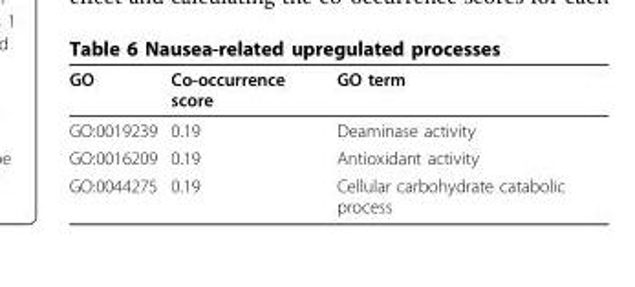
<table><thead><tr><td>GO</td><td>Co-occurrence score</td><td>GO term</td></tr></thead><tbody><tr><td>GO:0019239</td><td>0.19</td><td>Deaminase activity</td></tr><tr><td>GO:0016209</td><td>0.19</td><td>Antioxidant activity</td></tr><tr><td>GO:0044275</td><td>0.19</td><td>Cellular carbohydrate catabolic process</td></tr></tbody></table>